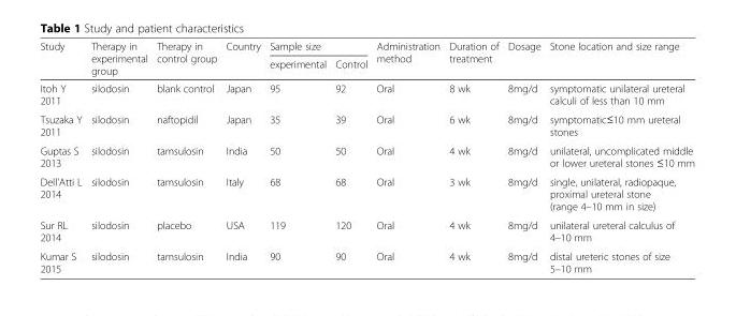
<table><thead><tr><td rowspan="2">Study</td><td rowspan="2">Therapy in experimental group</td><td rowspan="2">Therapy in control group</td><td rowspan="2">Country</td><td colspan="2">Sample size</td><td rowspan="2">Administration method</td><td rowspan="2">Duration of treatment</td><td rowspan="2">Dosage</td><td rowspan="2">Stone location and size range</td></tr><tr><td>experimental</td><td>Control</td></tr></thead><tbody><tr><td>Itoh Y 2011</td><td>silodosin</td><td>blank control</td><td>Japan</td><td>95</td><td>92</td><td>Oral</td><td>8 wk</td><td>8mg/d</td><td>symptomatic unilateral ureteral calculi of less than 10 mm</td></tr><tr><td>Tsuzaka Y 2011</td><td>silodosin</td><td>naftopidil</td><td>Japan</td><td>35</td><td>39</td><td>Oral</td><td>6 wk</td><td>8mg/d</td><td>symptomatic≤10 mm ureteral stones</td></tr><tr><td>Guptas S 2013</td><td>silodosin</td><td>tamsulosin</td><td>India</td><td>50</td><td>50</td><td>Oral</td><td>4 wk</td><td>8mg/d</td><td>unilateral, uncomplicated middle or lower ureteral stones ≤10 mm</td></tr><tr><td>Dell&#x27;Atti L 2014</td><td>silodosin</td><td>tamsulosin</td><td>Italy</td><td>68</td><td>68</td><td>Oral</td><td>3 wk</td><td>8mg/d</td><td>single, unilateral, radiopaque, proximal ureteral stone (range 4–10 mm in size)</td></tr><tr><td>Sur RL 2014</td><td>silodosin</td><td>placebo</td><td>USA</td><td>119</td><td>120</td><td>Oral</td><td>4 wk</td><td>8mg/d</td><td>unilateral ureteral calculus of 4–10 mm</td></tr><tr><td>Kumar S 2015</td><td>silodosin</td><td>tamsulosin</td><td>India</td><td>90</td><td>90</td><td>Oral</td><td>4 wk</td><td>8mg/d</td><td>distal ureteric stones of size 5–10 mm</td></tr></tbody></table>